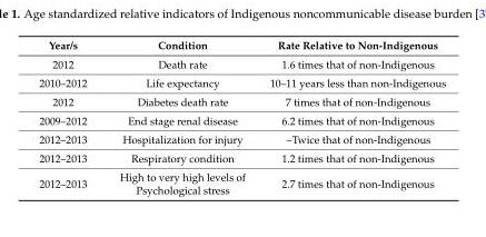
<table><thead><tr><td>Year/s</td><td>Condition</td><td>Rate Relative to Non-Indigenous</td></tr></thead><tbody><tr><td>2012</td><td>Death rate</td><td>1.6 times that of non-Indigenous</td></tr><tr><td>2010–2012</td><td>Life expectancy</td><td>10–11 years less than non-Indigenous</td></tr><tr><td>2012</td><td>Diabetes death rate</td><td>7 times that of non-Indigenous</td></tr><tr><td>2009–2012</td><td>End stage renal disease</td><td>6.2 times that of non-Indigenous</td></tr><tr><td>2012–2013</td><td>Hospitalization for injury</td><td>~Twice that of non-Indigenous</td></tr><tr><td>2012–2013</td><td>Respiratory condition</td><td>1.2 times that of non-Indigenous</td></tr><tr><td>2012–2013</td><td>High to very high levels of Psychological stress</td><td>2.7 times that of non-Indigenous</td></tr></tbody></table>